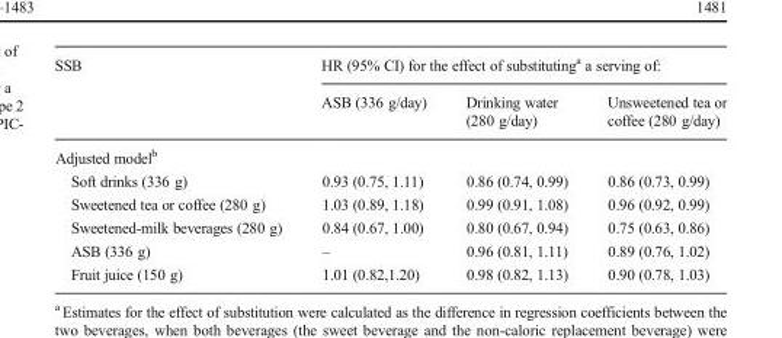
<table><thead><tr><td rowspan="2">SSB</td><td colspan="3">HR (95% CI) for the effect of substituting<sup>a</sup> a serving of:</td></tr><tr><td>ASB (336 g/day)</td><td>Drinking water (280 g/day)</td><td>Unsweetened tea or coffee (280 g/day)</td></tr></thead><tbody><tr><td colspan="4">Adjusted model<sup>b</sup></td></tr><tr><td>Soft drinks (336 g)</td><td>0.93 (0.75, 1.11)</td><td>0.86 (0.74, 0.99)</td><td>0.86 (0.73, 0.99)</td></tr><tr><td>Sweetened tea or coffee (280 g)</td><td>1.03 (0.89, 1.18)</td><td>0.99 (0.91, 1.08)</td><td>0.96 (0.92, 0.99)</td></tr><tr><td>Sweetened-milk beverages (280 g)</td><td>0.84 (0.67, 1.00)</td><td>0.80 (0.67, 0.94)</td><td>0.75 (0.63, 0.86)</td></tr><tr><td>ASB (336 g)</td><td>–</td><td>0.96 (0.81, 1.11)</td><td>0.89 (0.76, 1.02)</td></tr><tr><td>Fruit juice (150 g)</td><td>1.01 (0.82,1.20)</td><td>0.98 (0.82, 1.13)</td><td>0.90 (0.78, 1.03)</td></tr></tbody></table>